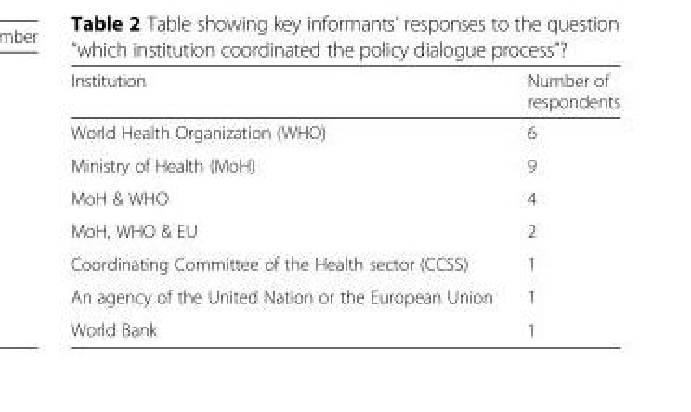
<table><thead><tr><td>Institution</td><td>Number of respondents</td></tr></thead><tbody><tr><td>World Health Organization (WHO)</td><td>6</td></tr><tr><td>Ministry of Health (MoH)</td><td>9</td></tr><tr><td>MoH &amp; WHO</td><td>4</td></tr><tr><td>MoH, WHO &amp; EU</td><td>2</td></tr><tr><td>Coordinating Committee of the Health sector (CCSS)</td><td>1</td></tr><tr><td>An agency of the United Nation or the European Union</td><td>1</td></tr><tr><td>World Bank</td><td>1</td></tr></tbody></table>